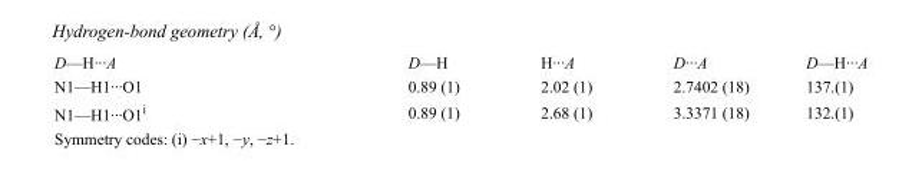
<table><tbody><tr><td>D—H···A</td><td>D—H</td><td>H···A</td><td>D···A</td><td>D—H···A</td></tr><tr><td>N1—H1···O1</td><td>0.89 (1)</td><td>2.02 (1)</td><td>2.7402 (18)</td><td>137.(1)</td></tr><tr><td>N1—H1···O1<sup>i</sup></td><td>0.89 (1)</td><td>2.68 (1)</td><td>3.3371 (18)</td><td>132.(1)</td></tr></tbody></table>